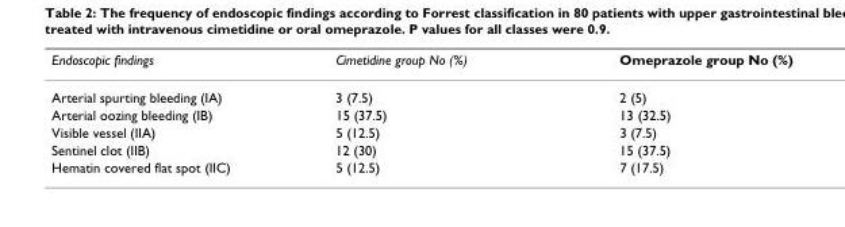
<table><thead><tr><td>Endoscopic findings</td><td>Cimetidine group No (%)</td><td>Omeprazole group No (%)</td></tr></thead><tbody><tr><td>Arterial spurting bleeding (IA)</td><td>3 (7.5)</td><td>2 (5)</td></tr><tr><td>Arterial oozing bleeding (IB)</td><td>15 (37.5)</td><td>13 (32.5)</td></tr><tr><td>Visible vessel (IIA)</td><td>5 (12.5)</td><td>3 (7.5)</td></tr><tr><td>Sentinel clot (IIB)</td><td>12 (30)</td><td>15 (37.5)</td></tr><tr><td>Hematin covered flat spot (IIC)</td><td>5 (12.5)</td><td>7 (17.5)</td></tr></tbody></table>